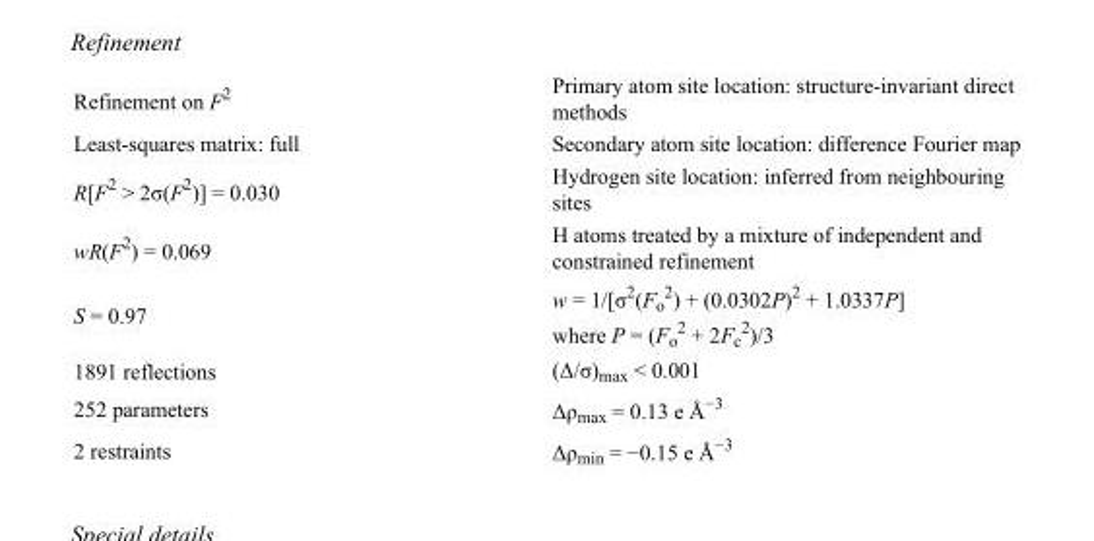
<table><tbody><tr><td>Refinement on F<sup>2</sup></td><td>Primary atom site location: structure-invariant direct methods</td></tr><tr><td>Least-squares matrix: full</td><td>Secondary atom site location: difference Fourier map</td></tr><tr><td>R[F<sup>2</sup> &gt; 2σ(F<sup>2</sup>)] = 0.030</td><td>Hydrogen site location: inferred from neighbouring sites</td></tr><tr><td>wR(F<sup>2</sup>) = 0.069</td><td>H atoms treated by a mixture of independent and constrained refinement</td></tr><tr><td>S = 0.97</td><td>w = 1/[σ<sup>2</sup>(F<sub>o</sub> <sup>2</sup>) + (0.0302P)<sup>2</sup> + 1.0337P] where P = (F<sub>o</sub> <sup>2</sup> + 2F<sub>c</sub> <sup>2</sup>)/3</td></tr><tr><td>1891 reflections</td><td>(Δ/σ)<sub>max</sub> &lt; 0.001</td></tr><tr><td>252 parameters</td><td>Δρ<sub>max</sub> = 0.13 e Å<sup>−3</sup></td></tr><tr><td>2 restraints</td><td>Δρ<sub>min</sub> = −0.15 e Å<sup>−3</sup></td></tr></tbody></table>